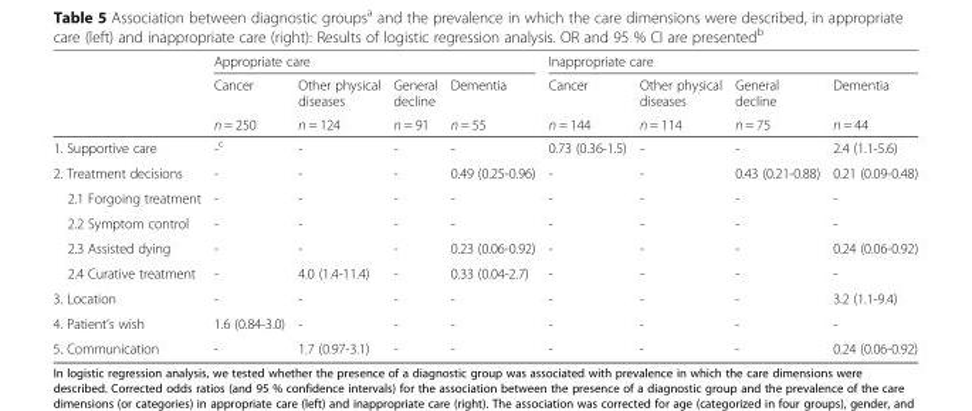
<table><thead><tr><td rowspan="3"></td><td colspan="4">Appropriate care</td><td colspan="4">Inappropriate care</td></tr><tr><td rowspan="2">Cancer n = 250</td><td rowspan="2">Other physical diseases n = 124</td><td rowspan="2">General decline n = 91</td><td rowspan="2">Dementia n = 55</td><td rowspan="2">Cancer n = 144</td><td rowspan="2">Other physical diseases n = 114</td><td rowspan="2">General decline n = 75</td><td rowspan="2">Dementia n = 44</td></tr><tr></tr></thead><tbody><tr><td>1. Supportive care</td><td>-<sup>c</sup></td><td>-</td><td>-</td><td>-</td><td>0.73 (0.36-1.5)</td><td>-</td><td>-</td><td>2.4 (1.1-5.6)</td></tr><tr><td>2. Treatment decisions</td><td>-</td><td>-</td><td>-</td><td>0.49 (0.25-0.96)</td><td>-</td><td>-</td><td>0.43 (0.21-0.88)</td><td>0.21 (0.09-0.48)</td></tr><tr><td>2.1 Forgoing treatment</td><td>-</td><td>-</td><td>-</td><td>-</td><td>-</td><td>-</td><td>-</td><td>-</td></tr><tr><td>2.2 Symptom control</td><td>-</td><td>-</td><td>-</td><td>-</td><td>-</td><td>-</td><td>-</td><td>-</td></tr><tr><td>2.3 Assisted dying</td><td>-</td><td>-</td><td>-</td><td>0.23 (0.06-0.92)</td><td>-</td><td>-</td><td>-</td><td>0.24 (0.06-0.92)</td></tr><tr><td>2.4 Curative treatment</td><td>-</td><td>4.0 (1.4-11.4)</td><td>-</td><td>0.33 (0.04-2.7)</td><td>-</td><td>-</td><td>-</td><td>-</td></tr><tr><td>3. Location</td><td>-</td><td>-</td><td>-</td><td>-</td><td>-</td><td>-</td><td>-</td><td>3.2 (1.1-9.4)</td></tr><tr><td>4. Patient’s wish</td><td>1.6 (0.84-3.0)</td><td>-</td><td>-</td><td>-</td><td>-</td><td>-</td><td>-</td><td>-</td></tr><tr><td>5. Communication</td><td>-</td><td>1.7 (0.97-3.1)</td><td>-</td><td>-</td><td>-</td><td>-</td><td>-</td><td>0.24 (0.06-0.92)</td></tr></tbody></table>